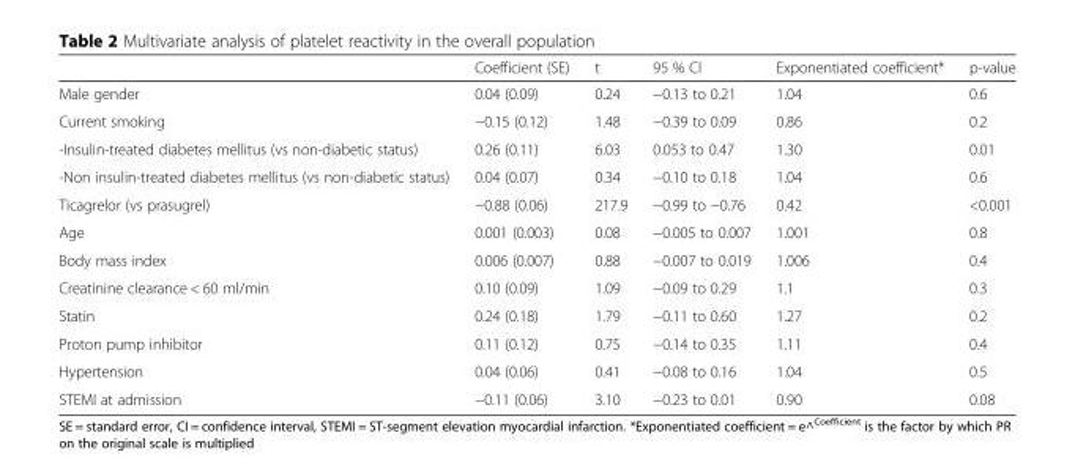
<table><thead><tr><td></td><td>Coefficient (SE)</td><td>t</td><td>95 % CI</td><td>Exponentiated coefficient*</td><td>p-value</td></tr></thead><tbody><tr><td>Male gender</td><td>0.04 (0.09)</td><td>0.24</td><td>−0.13 to 0.21</td><td>1.04</td><td>0.6</td></tr><tr><td>Current smoking</td><td>−0.15 (0.12)</td><td>1.48</td><td>−0.39 to 0.09</td><td>0.86</td><td>0.2</td></tr><tr><td>-Insulin-treated diabetes mellitus (vs non-diabetic status)</td><td>0.26 (0.11)</td><td>6.03</td><td>0.053 to 0.47</td><td>1.30</td><td>0.01</td></tr><tr><td>-Non insulin-treated diabetes mellitus (vs non-diabetic status)</td><td>0.04 (0.07)</td><td>0.34</td><td>−0.10 to 0.18</td><td>1.04</td><td>0.6</td></tr><tr><td>Ticagrelor (vs prasugrel)</td><td>−0.88 (0.06)</td><td>217.9</td><td>−0.99 to −0.76</td><td>0.42</td><td>&lt;0.001</td></tr><tr><td>Age</td><td>0.001 (0.003)</td><td>0.08</td><td>−0.005 to 0.007</td><td>1.001</td><td>0.8</td></tr><tr><td>Body mass index</td><td>0.006 (0.007)</td><td>0.88</td><td>−0.007 to 0.019</td><td>1.006</td><td>0.4</td></tr><tr><td>Creatinine clearance &lt; 60 ml/min</td><td>0.10 (0.09)</td><td>1.09</td><td>−0.09 to 0.29</td><td>1.1</td><td>0.3</td></tr><tr><td>Statin</td><td>0.24 (0.18)</td><td>1.79</td><td>−0.11 to 0.60</td><td>1.27</td><td>0.2</td></tr><tr><td>Proton pump inhibitor</td><td>0.11 (0.12)</td><td>0.75</td><td>−0.14 to 0.35</td><td>1.11</td><td>0.4</td></tr><tr><td>Hypertension</td><td>0.04 (0.06)</td><td>0.41</td><td>−0.08 to 0.16</td><td>1.04</td><td>0.5</td></tr><tr><td>STEMI at admission</td><td>−0.11 (0.06)</td><td>3.10</td><td>−0.23 to 0.01</td><td>0.90</td><td>0.08</td></tr></tbody></table>